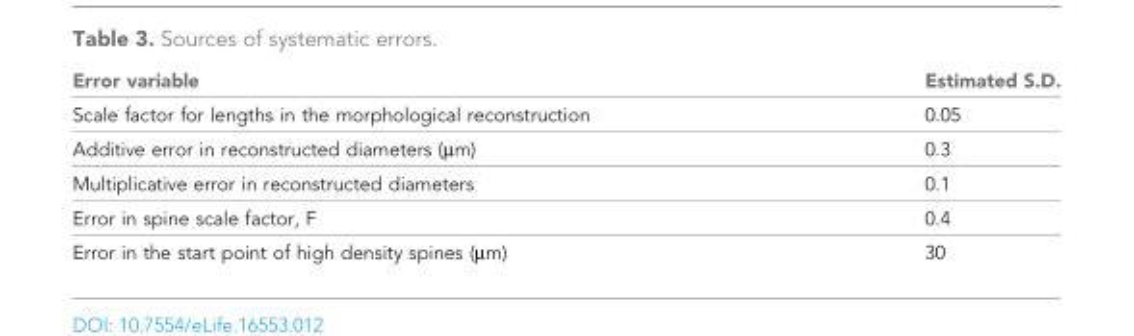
<table><thead><tr><td>Error variable</td><td>Estimated S.D.</td></tr></thead><tbody><tr><td>Scale factor for lengths in the morphological reconstruction</td><td>0.05</td></tr><tr><td>Additive error in reconstructed diameters (µm)</td><td>0.3</td></tr><tr><td>Multiplicative error in reconstructed diameters</td><td>0.1</td></tr><tr><td>Error in spine scale factor, F</td><td>0.4</td></tr><tr><td>Error in the start point of high density spines (μm)</td><td>30</td></tr></tbody></table>